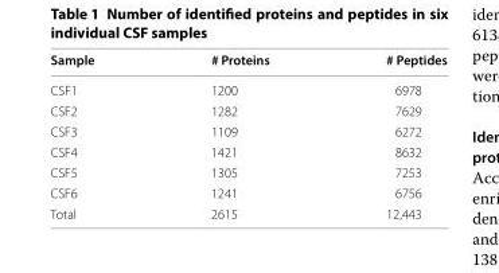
<table><thead><tr><td>Sample</td><td># Proteins</td><td># Peptides</td></tr></thead><tbody><tr><td>CSF1</td><td>1200</td><td>6978</td></tr><tr><td>CSF2</td><td>1282</td><td>7629</td></tr><tr><td>CSF3</td><td>1109</td><td>6272</td></tr><tr><td>CSF4</td><td>1421</td><td>8632</td></tr><tr><td>CSF5</td><td>1305</td><td>7253</td></tr><tr><td>CSF6</td><td>1241</td><td>6756</td></tr><tr><td>Total</td><td>2615</td><td>12,443</td></tr></tbody></table>